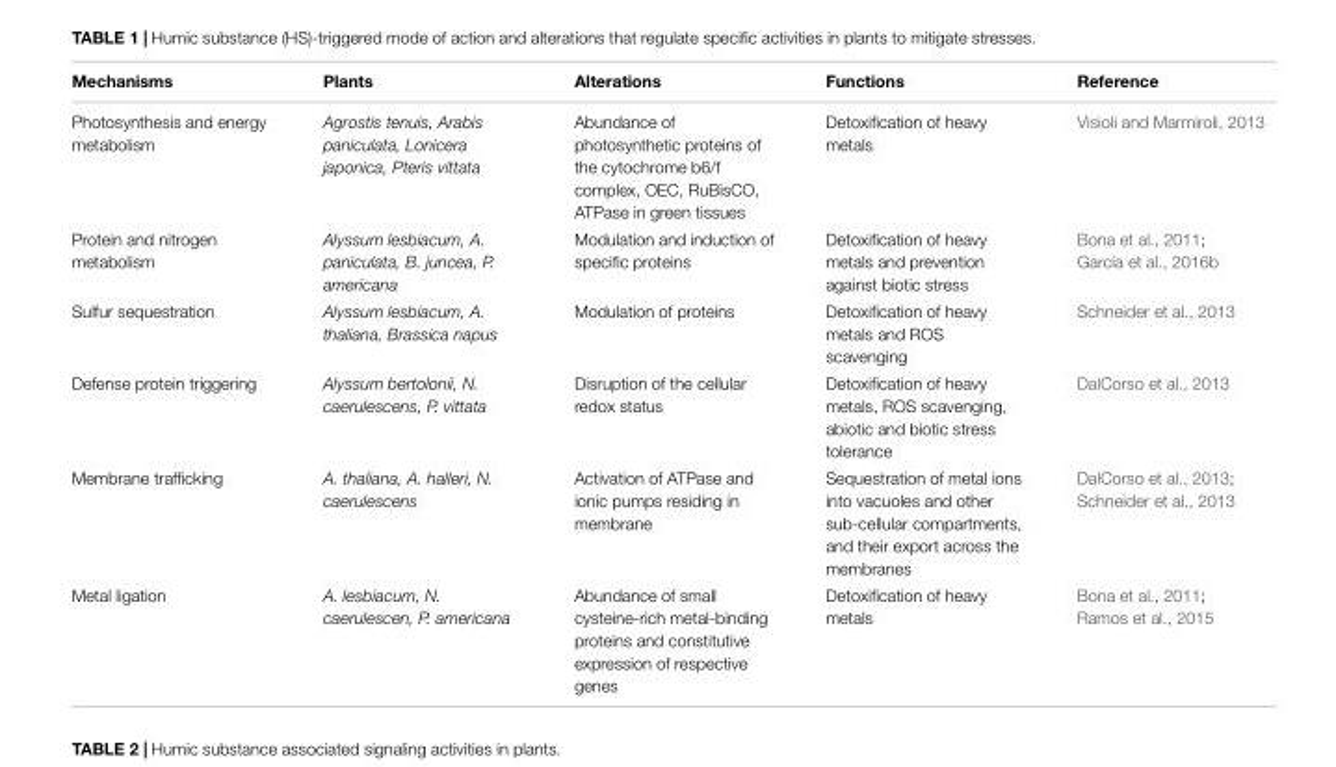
<table><thead><tr><td>Mechanisms</td><td>Plants</td><td>Alterations</td><td>Functions</td><td>Reference</td></tr></thead><tbody><tr><td>Photosynthesis and energy metabolism</td><td>Agrostis tenuis, Arabis paniculata, Lonicera japonica, Pteris vittata</td><td>Abundance of photosynthetic proteins of the cytochrome b6/f complex, OEC, RuBisCO, ATPase in green tissues</td><td>Detoxification of heavy metals</td><td>Visioli and Marmiroli, 2013</td></tr><tr><td>Protein and nitrogen metabolism</td><td>Alyssum lesbiacum, A. paniculata, B. juncea, P. americana</td><td>Modulation and induction of specific proteins</td><td>Detoxification of heavy metals and prevention against biotic stress</td><td>Bona et al., 2011; García et al., 2016b</td></tr><tr><td>Sulfur sequestration</td><td>Alyssum lesbiacum, A. thaliana, Brassica napus</td><td>Modulation of proteins</td><td>Detoxification of heavy metals and ROS scavenging</td><td>Schneider et al., 2013</td></tr><tr><td>Defense protein triggering</td><td>Alyssum bertolonii, N. caerulescens, P. vittata</td><td>Disruption of the cellular redox status</td><td>Detoxification of heavy metals, ROS scavenging, abiotic and biotic stress tolerance</td><td>DalCorso et al., 2013</td></tr><tr><td>Membrane trafficking</td><td>A. thaliana, A. halleri, N. caerulescens</td><td>Activation of ATPase and ionic pumps residing in membrane</td><td>Sequestration of metal ions into vacuoles and other sub-cellular compartments, and their export across the membranes</td><td>DalCorso et al., 2013; Schneider et al., 2013</td></tr><tr><td>Metal ligation</td><td>A. lesbiacum, N. caerulescen, P. americana</td><td>Abundance of small cysteine-rich metal-binding proteins and constitutive expression of respective genes</td><td>Detoxification of heavy metals</td><td>Bona et al., 2011; Ramos et al., 2015</td></tr></tbody></table>